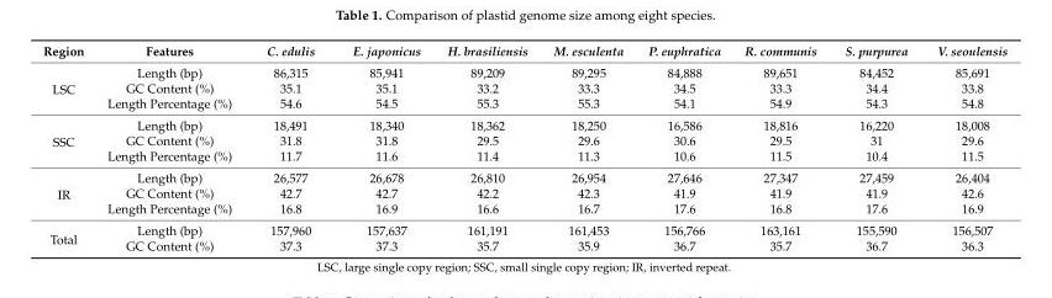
<table><thead><tr><td>Region</td><td>Features</td><td>C. edulis</td><td>E. japonicus</td><td>H. brasiliensis</td><td>M. esculenta</td><td>P. euphratica</td><td>R. communis</td><td>S. purpurea</td><td>V. seoulensis</td></tr></thead><tbody><tr><td rowspan="3">LSC</td><td>Length (bp)</td><td>86,315</td><td>85,941</td><td>89,209</td><td>89,295</td><td>84,888</td><td>89,651</td><td>84,452</td><td>85,691</td></tr><tr><td>GC Content (%)</td><td>35.1</td><td>35.1</td><td>33.2</td><td>33.3</td><td>34.5</td><td>33.3</td><td>34.4</td><td>33.8</td></tr><tr><td>Length Percentage (%)</td><td>54.6</td><td>54.5</td><td>55.3</td><td>55.3</td><td>54.1</td><td>54.9</td><td>54.3</td><td>54.8</td></tr><tr><td rowspan="3">SSC</td><td>Length (bp)</td><td>18,491</td><td>18,340</td><td>18,362</td><td>18,250</td><td>16,586</td><td>18,816</td><td>16,220</td><td>18,008</td></tr><tr><td>GC Content (%)</td><td>31.8</td><td>31.8</td><td>29.5</td><td>29.6</td><td>30.6</td><td>29.5</td><td>31</td><td>29.6</td></tr><tr><td>Length Percentage (%)</td><td>11.7</td><td>11.6</td><td>11.4</td><td>11.3</td><td>10.6</td><td>11.5</td><td>10.4</td><td>11.5</td></tr><tr><td rowspan="3">IR</td><td>Length (bp)</td><td>26,577</td><td>26,678</td><td>26,810</td><td>26,954</td><td>27,646</td><td>27,347</td><td>27,459</td><td>26,404</td></tr><tr><td>GC Content (%)</td><td>42.7</td><td>42.7</td><td>42.2</td><td>42.3</td><td>41.9</td><td>41.9</td><td>41.9</td><td>42.6</td></tr><tr><td>Length Percentage (%)</td><td>16.8</td><td>16.9</td><td>16.6</td><td>16.7</td><td>17.6</td><td>16.8</td><td>17.6</td><td>16.9</td></tr><tr><td rowspan="2">Total</td><td>Length (bp)</td><td>157,960</td><td>157,637</td><td>161,191</td><td>161,453</td><td>156,766</td><td>163,161</td><td>155,590</td><td>156,507</td></tr><tr><td>GC Content (%)</td><td>37.3</td><td>37.3</td><td>35.7</td><td>35.9</td><td>36.7</td><td>35.7</td><td>36.7</td><td>36.3</td></tr></tbody></table>